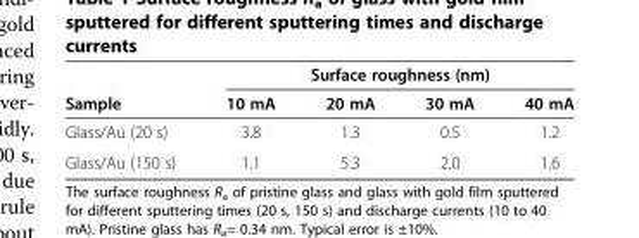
<table><thead><tr><td rowspan="2">Sample</td><td colspan="4">Surface roughness (nm)</td></tr><tr><td>10 mA</td><td>20 mA</td><td>30 mA</td><td>40 mA</td></tr></thead><tbody><tr><td>Glass/Au (20 s)</td><td>3.8</td><td>1.3</td><td>0.5</td><td>1.2</td></tr><tr><td>Glass/Au (150 s)</td><td>1.1</td><td>5.3</td><td>2.0</td><td>1.6</td></tr></tbody></table>